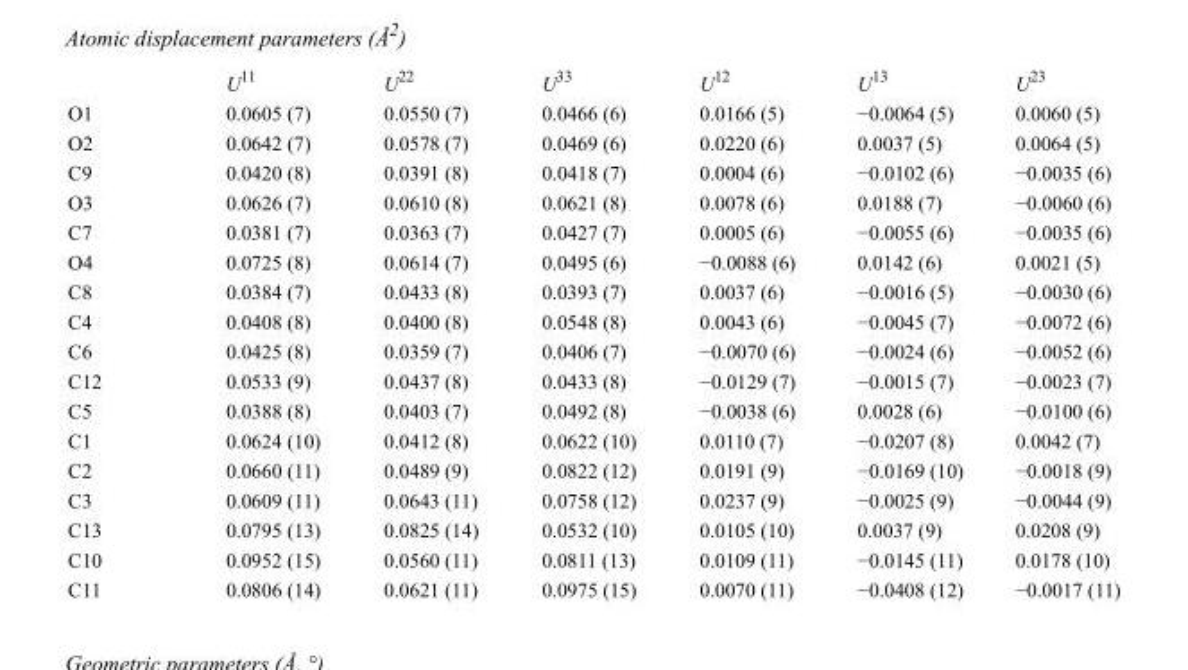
<table><thead><tr><td></td><td>U<sup>11</sup></td><td>U<sup>22</sup></td><td>U<sup>33</sup></td><td>U<sup>12</sup></td><td>U<sup>13</sup></td><td>U<sup>23</sup></td></tr></thead><tbody><tr><td>O1</td><td>0.0605 (7)</td><td>0.0550 (7)</td><td>0.0466 (6)</td><td>0.0166 (5)</td><td>−0.0064 (5)</td><td>0.0060 (5)</td></tr><tr><td>O2</td><td>0.0642 (7)</td><td>0.0578 (7)</td><td>0.0469 (6)</td><td>0.0220 (6)</td><td>0.0037 (5)</td><td>0.0064 (5)</td></tr><tr><td>C9</td><td>0.0420 (8)</td><td>0.0391 (8)</td><td>0.0418 (7)</td><td>0.0004 (6)</td><td>−0.0102 (6)</td><td>−0.0035 (6)</td></tr><tr><td>O3</td><td>0.0626 (7)</td><td>0.0610 (8)</td><td>0.0621 (8)</td><td>0.0078 (6)</td><td>0.0188 (7)</td><td>−0.0060 (6)</td></tr><tr><td>C7</td><td>0.0381 (7)</td><td>0.0363 (7)</td><td>0.0427 (7)</td><td>0.0005 (6)</td><td>−0.0055 (6)</td><td>−0.0035 (6)</td></tr><tr><td>O4</td><td>0.0725 (8)</td><td>0.0614 (7)</td><td>0.0495 (6)</td><td>−0.0088 (6)</td><td>0.0142 (6)</td><td>0.0021 (5)</td></tr><tr><td>C8</td><td>0.0384 (7)</td><td>0.0433 (8)</td><td>0.0393 (7)</td><td>0.0037 (6)</td><td>−0.0016 (5)</td><td>−0.0030 (6)</td></tr><tr><td>C4</td><td>0.0408 (8)</td><td>0.0400 (8)</td><td>0.0548 (8)</td><td>0.0043 (6)</td><td>−0.0045 (7)</td><td>−0.0072 (6)</td></tr><tr><td>C6</td><td>0.0425 (8)</td><td>0.0359 (7)</td><td>0.0406 (7)</td><td>−0.0070 (6)</td><td>−0.0024 (6)</td><td>−0.0052 (6)</td></tr><tr><td>C12</td><td>0.0533 (9)</td><td>0.0437 (8)</td><td>0.0433 (8)</td><td>−0.0129 (7)</td><td>−0.0015 (7)</td><td>−0.0023 (7)</td></tr><tr><td>C5</td><td>0.0388 (8)</td><td>0.0403 (7)</td><td>0.0492 (8)</td><td>−0.0038 (6)</td><td>0.0028 (6)</td><td>−0.0100 (6)</td></tr><tr><td>C1</td><td>0.0624 (10)</td><td>0.0412 (8)</td><td>0.0622 (10)</td><td>0.0110 (7)</td><td>−0.0207 (8)</td><td>0.0042 (7)</td></tr><tr><td>C2</td><td>0.0660 (11)</td><td>0.0489 (9)</td><td>0.0822 (12)</td><td>0.0191 (9)</td><td>−0.0169 (10)</td><td>−0.0018 (9)</td></tr><tr><td>C3</td><td>0.0609 (11)</td><td>0.0643 (11)</td><td>0.0758 (12)</td><td>0.0237 (9)</td><td>−0.0025 (9)</td><td>−0.0044 (9)</td></tr><tr><td>C13</td><td>0.0795 (13)</td><td>0.0825 (14)</td><td>0.0532 (10)</td><td>0.0105 (10)</td><td>0.0037 (9)</td><td>0.0208 (9)</td></tr><tr><td>C10</td><td>0.0952 (15)</td><td>0.0560 (11)</td><td>0.0811 (13)</td><td>0.0109 (11)</td><td>−0.0145 (11)</td><td>0.0178 (10)</td></tr><tr><td>C11</td><td>0.0806 (14)</td><td>0.0621 (11)</td><td>0.0975 (15)</td><td>0.0070 (11)</td><td>−0.0408 (12)</td><td>−0.0017 (11)</td></tr></tbody></table>